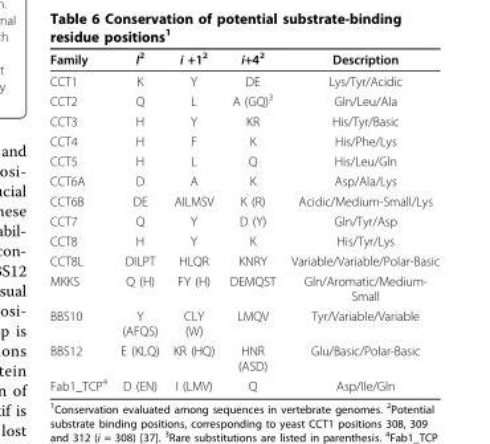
<table><thead><tr><td>Family</td><td>I<sup>2</sup></td><td>i +1<sup>2</sup></td><td>i+4<sup>2</sup></td><td>Description</td></tr></thead><tbody><tr><td>CCT1</td><td>K</td><td>Y</td><td>DE</td><td>Lys/Tyr/Acidic</td></tr><tr><td>CCT2</td><td>Q</td><td>L</td><td>A (GQ)<sup>3</sup></td><td>Gln/Leu/Ala</td></tr><tr><td>CCT3</td><td>H</td><td>Y</td><td>KR</td><td>His/Tyr/Basic</td></tr><tr><td>CCT4</td><td>H</td><td>F</td><td>K</td><td>His/Phe/Lys</td></tr><tr><td>CCT5</td><td>H</td><td>L</td><td>Q</td><td>His/Leu/Gln</td></tr><tr><td>CCT6A</td><td>D</td><td>A</td><td>K</td><td>Asp/Ala/Lys</td></tr><tr><td>CCT6B</td><td>DE</td><td>AILMSV</td><td>K (R)</td><td>Acidic/Medium-Small/Lys</td></tr><tr><td>CCT7</td><td>Q</td><td>Y</td><td>D (Y)</td><td>Gln/Tyr/Asp</td></tr><tr><td>CCT8</td><td>H</td><td>Y</td><td>K</td><td>His/Tyr/Lys</td></tr><tr><td>CCT8L</td><td>DILPT</td><td>HLQR</td><td>KNRY</td><td>Variable/Variable/Polar-Basic</td></tr><tr><td>MKKS</td><td>Q (H)</td><td>FY (H)</td><td>DEMQST</td><td>Gln/Aromatic/Medium- Small</td></tr><tr><td>BBS10</td><td>Y (AFQS)</td><td>CLY (W)</td><td>LMQV</td><td>Tyr/Variable/Variable</td></tr><tr><td>BBS12</td><td>E (KLQ)</td><td>KR (HQ)</td><td>HNR (ASD)</td><td>Glu/Basic/Polar-Basic</td></tr><tr><td>Fab1_TCP<sup>4</sup></td><td>D (EN)</td><td>I (LMV)</td><td>Q</td><td>Asp/Ile/Gln</td></tr></tbody></table>